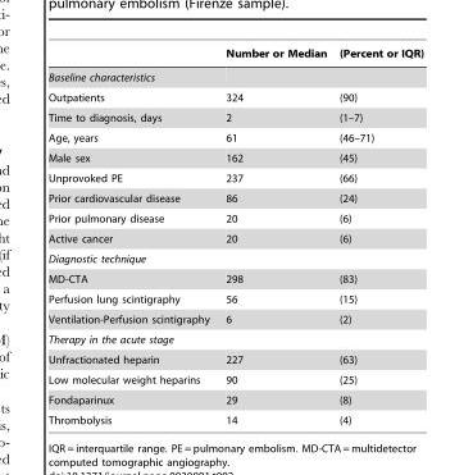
<table><thead><tr><td></td><td>Number or Median</td><td>(Percent or IQR)</td></tr></thead><tbody><tr><td colspan="3">Baseline characteristics</td></tr><tr><td>Outpatients</td><td>324</td><td>(90)</td></tr><tr><td>Time to diagnosis, days</td><td>2</td><td>(1–7)</td></tr><tr><td>Age, years</td><td>61</td><td>(46–71)</td></tr><tr><td>Male sex</td><td>162</td><td>(45)</td></tr><tr><td>Unprovoked PE</td><td>237</td><td>(66)</td></tr><tr><td>Prior cardiovascular disease</td><td>86</td><td>(24)</td></tr><tr><td>Prior pulmonary disease</td><td>20</td><td>(6)</td></tr><tr><td>Active cancer</td><td>20</td><td>(6)</td></tr><tr><td colspan="3">Diagnostic technique</td></tr><tr><td>MD-CTA</td><td>298</td><td>(83)</td></tr><tr><td>Perfusion lung scintigraphy</td><td>56</td><td>(15)</td></tr><tr><td>Ventilation-Perfusion scintigraphy</td><td>6</td><td>(2)</td></tr><tr><td colspan="3">Therapy in the acute stage</td></tr><tr><td>Unfractionated heparin</td><td>227</td><td>(63)</td></tr><tr><td>Low molecular weight heparins</td><td>90</td><td>(25)</td></tr><tr><td>Fondaparinux</td><td>29</td><td>(8)</td></tr><tr><td>Thrombolysis</td><td>14</td><td>(4)</td></tr></tbody></table>